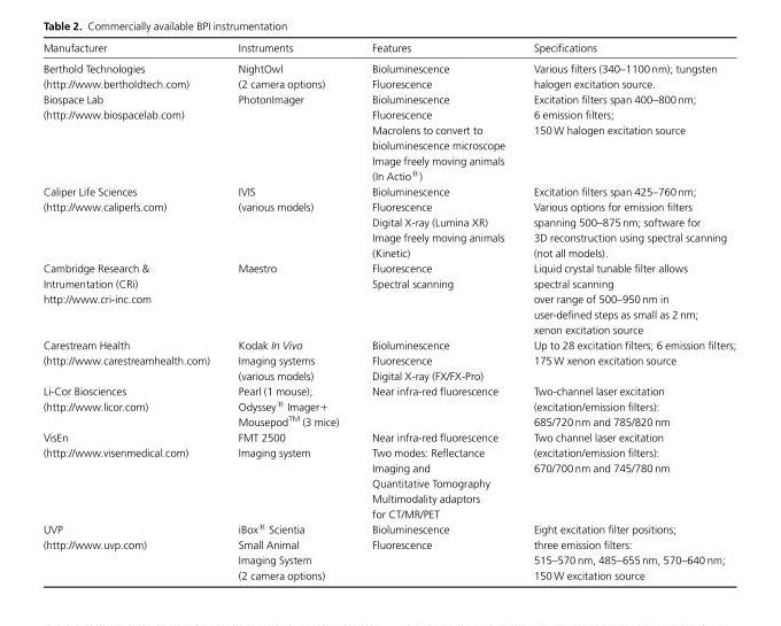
<table><thead><tr><td>Manufacturer</td><td>Instruments</td><td>Features</td><td>Specifications</td></tr></thead><tbody><tr><td>Berthold Technologies (http://www.bertholdtech.com)</td><td>NightOwl (2 camera options)</td><td>Bioluminescence Fluorescence</td><td>Various filters (340–1100 nm); tungsten halogen excitation source.</td></tr><tr><td>Biospace Lab (http://www.biospacelab.com)</td><td>PhotonImager</td><td>Bioluminescence Fluorescence Macrolens to convert to bioluminescence microscope Image freely moving animals (In Actio®)</td><td>Excitation filters span 400–800 nm; 6 emission filters; 150 W halogen excitation source</td></tr><tr><td>Caliper Life Sciences (http://www.caliperls.com)</td><td>IVIS (various models)</td><td>Bioluminescence Fluorescence Digital X-ray (Lumina XR) Image freely moving animals (Kinetic)</td><td>Excitation filters span 425–760 nm; Various options for emission filters spanning 500–875 nm; software for 3D reconstruction using spectral scanning (not all models).</td></tr><tr><td>Cambridge Research &amp; Intrumentation (CRi) http://www.cri-inc.com</td><td>Maestro</td><td>Fluorescence Spectral scanning</td><td>Liquid crystal tunable filter allows spectral scanning over range of 500–950 nm in user-defined steps as small as 2 nm; xenon excitation source</td></tr><tr><td>Carestream Health (http://www.carestreamhealth.com)</td><td>Kodak In Vivo Imaging systems (various models)</td><td>Bioluminescence Fluorescence Digital X-ray (FX/FX-Pro)</td><td>Up to 28 excitation filters; 6 emission filters; 175 W xenon excitation source</td></tr><tr><td>Li-Cor Biosciences (http://www.licor.com)</td><td>Pearl (1 mouse); Odysseys Imager1 MousepodTM (3 mice)</td><td>Near infra-red fluorescence</td><td>Two-channel laser excitation (excitation/emission filters): 685/720 nm and 785/820 nm</td></tr><tr><td>VisEn (http://www.visenmedical.com)</td><td>FMT 2500 Imaging system</td><td>Near infra-red fluorescence Two modes: Reflectance Imaging and Quantitative Tomography Multimodality adaptors for CT/MR/PET</td><td>Two channel laser excitation (excitation/emission filters): 670/700 nm and 745/780 nm</td></tr><tr><td>UVP (http://www.uvp.com)</td><td>iBox® Scientia Small Animal Imaging System (2 camera options)</td><td>Bioluminescence Fluorescence</td><td>Eight excitation filter positions; three emission filters: 515–570 nm, 485–655 nm, 570–640 nm; 150 W excitation source</td></tr></tbody></table>